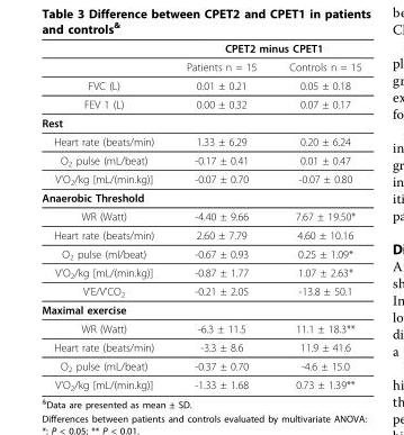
<table><thead><tr><td rowspan="2"></td><td colspan="2">CPET2 minus CPET1</td></tr><tr><td>Patients n = 15</td><td>Controls n = 15</td></tr></thead><tbody><tr><td>FVC (L)</td><td>0.01 ± 0.21</td><td>0.05 ± 0.18</td></tr><tr><td>FEV 1 (L)</td><td>0.00 ± 0.32</td><td>0.07 ± 0.17</td></tr><tr><td colspan="3">Rest</td></tr><tr><td>Heart rate (beats/min)</td><td>1.33 ± 6.29</td><td>0.20 ± 6.24</td></tr><tr><td>O<sub>2</sub> pulse (mL/beat)</td><td>-0.17 ± 0.41</td><td>0.01 ± 0.47</td></tr><tr><td>V’O<sub>2</sub>/kg [mL/(min.kg)]</td><td>-0.07 ± 0.70</td><td>-0.07 ± 0.80</td></tr><tr><td colspan="3">Anaerobic Threshold</td></tr><tr><td>WR (Watt)</td><td>-4.40 ± 9.66</td><td>7.67 ± 19.50*</td></tr><tr><td>Heart rate (beats/min)</td><td>2.60 ± 7.79</td><td>4.60 ± 10.16</td></tr><tr><td>O<sub>2</sub> pulse (ml/beat)</td><td>-0.67 ± 0.93</td><td>0.25 ± 1.09*</td></tr><tr><td>V’O<sub>2</sub>/kg [mL/(min.kg)]</td><td>-0.87 ± 1.77</td><td>1.07 ± 2.63*</td></tr><tr><td>V’E/V’CO<sub>2</sub></td><td>-0.21 ± 2.05</td><td>-13.8 ± 50.1</td></tr><tr><td colspan="3">Maximal exercise</td></tr><tr><td>WR (Watt)</td><td>-6.3 ± 11.5</td><td>11.1 ± 18.3**</td></tr><tr><td>Heart rate (beats/min)</td><td>-3.3 ± 8.6</td><td>11.9 ± 41.6</td></tr><tr><td>O<sub>2</sub> pulse (mL/beat)</td><td>-0.37 ± 0.70</td><td>-4.6 ± 15.0</td></tr><tr><td>V’O<sub>2</sub>/kg [mL/(min.kg)]</td><td>-1.33 ± 1.68</td><td>0.73 ± 1.39**</td></tr></tbody></table>